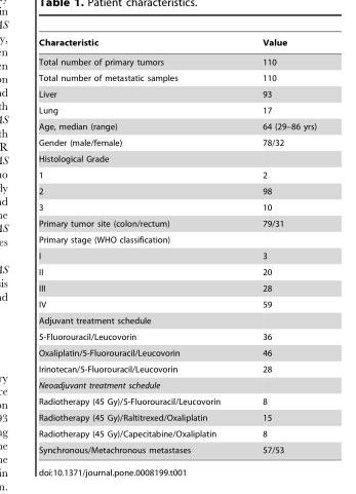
<table><thead><tr><td>Characteristic</td><td>Value</td></tr></thead><tbody><tr><td>Total number of primary tumors</td><td>110</td></tr><tr><td>Total number of metastatic samples</td><td>110</td></tr><tr><td>Liver</td><td>93</td></tr><tr><td>Lung</td><td>17</td></tr><tr><td>Age, median (range)</td><td>64 (29–86 yrs)</td></tr><tr><td>Gender (male/female)</td><td>78/32</td></tr><tr><td colspan="2">Histological Grade</td></tr><tr><td>1</td><td>2</td></tr><tr><td>2</td><td>98</td></tr><tr><td>3</td><td>10</td></tr><tr><td>Primary tumor site (colon/rectum)</td><td>79/31</td></tr><tr><td colspan="2">Primary stage (WHO classification)</td></tr><tr><td>I</td><td>3</td></tr><tr><td>II</td><td>20</td></tr><tr><td>III</td><td>28</td></tr><tr><td>IV</td><td>59</td></tr><tr><td colspan="2">Adjuvant treatment schedule</td></tr><tr><td>5-Fluorouracil/Leucovorin</td><td>36</td></tr><tr><td>Oxaliplatin/5-Fluorouracil/Leucovorin</td><td>46</td></tr><tr><td>Irinotecan/5-Fluorouracil/Leucovorin</td><td>28</td></tr><tr><td colspan="2">Neoadjuvant treatment schedule</td></tr><tr><td>Radiotherapy (45 Gy)/5-Fluorouracil/Leucovorin</td><td>8</td></tr><tr><td>Radiotherapy (45 Gy)/Raltitrexed/Oxaliplatin</td><td>15</td></tr><tr><td>Radiotherapy (45 Gy)/Capecitabine/Oxaliplatin</td><td>8</td></tr><tr><td>Synchronous/Metachronous metastases</td><td>57/53</td></tr></tbody></table>